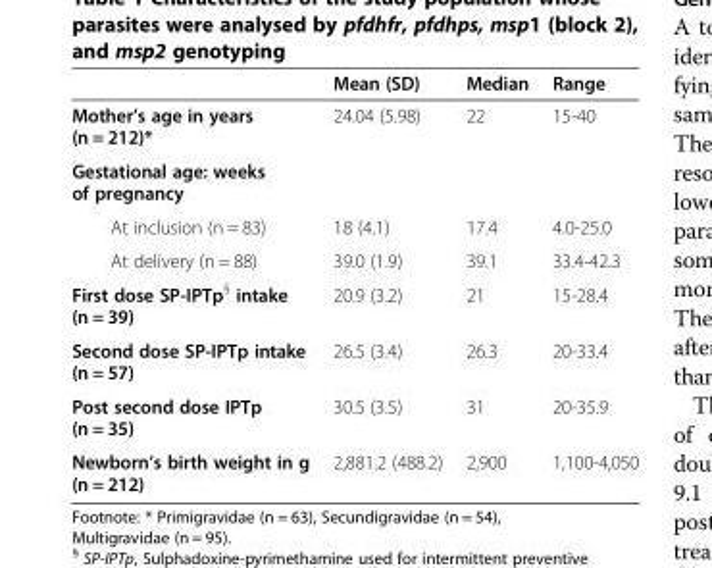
<table><thead><tr><td></td><td>Mean (SD)</td><td>Median</td><td>Range</td></tr></thead><tbody><tr><td>Mother’s age in years (n = 212)*</td><td>24.04 (5.98)</td><td>22</td><td>15-40</td></tr><tr><td colspan="4">Gestational age: weeks of pregnancy</td></tr><tr><td>At inclusion (n = 83)</td><td>18 (4.1)</td><td>17.4</td><td>4.0-25.0</td></tr><tr><td>At delivery (n = 88)</td><td>39.0 (1.9)</td><td>39.1</td><td>33.4-42.3</td></tr><tr><td>First dose SP-IPTp<sup>§</sup> intake (n = 39)</td><td>20.9 (3.2)</td><td>21</td><td>15-28.4</td></tr><tr><td>Second dose SP-IPTp intake (n = 57)</td><td>26.5 (3.4)</td><td>26.3</td><td>20-33.4</td></tr><tr><td>Post second dose IPTp (n = 35)</td><td>30.5 (3.5)</td><td>31</td><td>20-35.9</td></tr><tr><td>Newborn’s birth weight in g (n = 212)</td><td>2,881.2 (488.2)</td><td>2,900</td><td>1,100-4,050</td></tr></tbody></table>